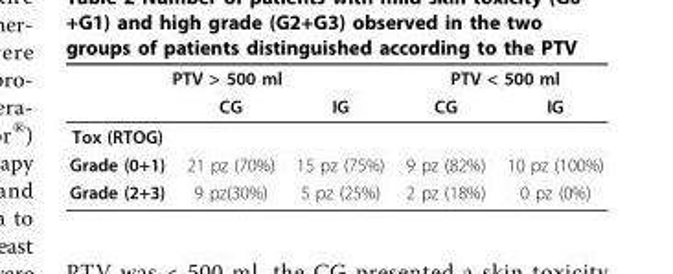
<table><thead><tr><td colspan="3">PTV &gt; 500 ml</td><td colspan="2">PTV &lt; 500 ml</td></tr><tr><td></td><td>CG</td><td>IG</td><td>CG</td><td>IG</td></tr></thead><tbody><tr><td colspan="5">Tox (RTOG)</td></tr><tr><td>Grade (0+1)</td><td>21 pz (70%)</td><td>15 pz (75%)</td><td>9 pz (82%)</td><td>10 pz (100%)</td></tr><tr><td>Grade (2+3)</td><td>9 pz(30%)</td><td>5 pz (25%)</td><td>2 pz (18%)</td><td>0 pz (0%)</td></tr></tbody></table>